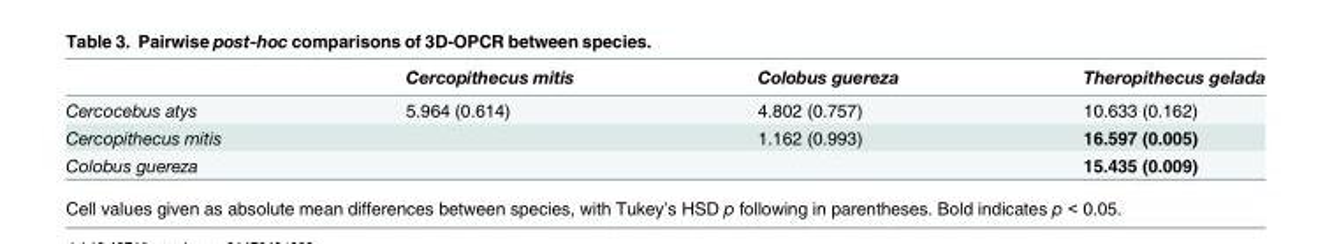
<table><thead><tr><td></td><td>Cercopithecus mitis</td><td>Colobus guereza</td><td>Theropithecus gelada</td></tr></thead><tbody><tr><td>Cercocebus atys</td><td>5.964 (0.614)</td><td>4.802 (0.757)</td><td>10.633 (0.162)</td></tr><tr><td>Cercopithecus mitis</td><td></td><td>1.162 (0.993)</td><td>16.597 (0.005)</td></tr><tr><td>Colobus guereza</td><td></td><td></td><td>15.435 (0.009)</td></tr></tbody></table>